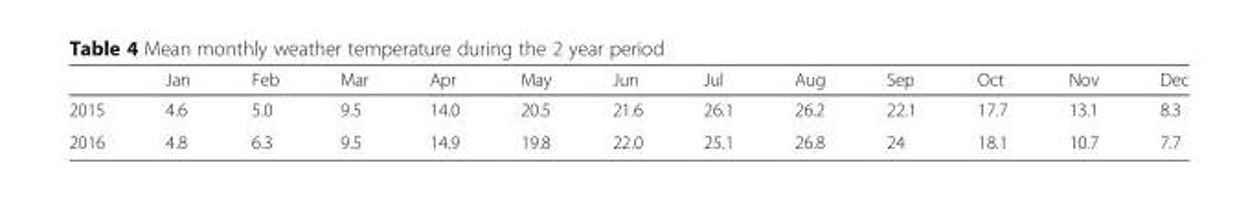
<table><thead><tr><td></td><td>Jan</td><td>Feb</td><td>Mar</td><td>Apr</td><td>May</td><td>Jun</td><td>Jul</td><td>Aug</td><td>Sep</td><td>Oct</td><td>Nov</td><td>Dec</td></tr></thead><tbody><tr><td>2015</td><td>4.6</td><td>5.0</td><td>9.5</td><td>14.0</td><td>20.5</td><td>21.6</td><td>26.1</td><td>26.2</td><td>22.1</td><td>17.7</td><td>13.1</td><td>8.3</td></tr><tr><td>2016</td><td>4.8</td><td>6.3</td><td>9.5</td><td>14.9</td><td>19.8</td><td>22.0</td><td>25.1</td><td>26.8</td><td>24</td><td>18.1</td><td>10.7</td><td>7.7</td></tr></tbody></table>